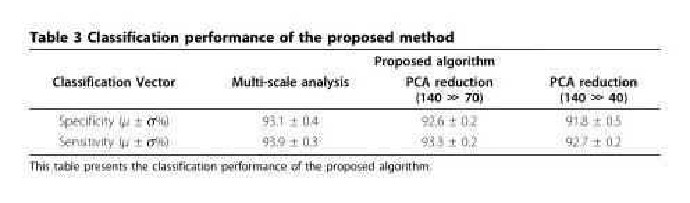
<table><thead><tr><td rowspan="2">Classification Vector</td><td colspan="3">Proposed algorithm</td></tr><tr><td>Multi-scale analysis</td><td>PCA reduction (140 ≫ 70)</td><td>PCA reduction (140 ≫ 40)</td></tr></thead><tbody><tr><td>Specificity (μ ± σ%)</td><td>93.1 ± 0.4</td><td>92.6 ± 0.2</td><td>91.8 ± 0.5</td></tr><tr><td>Sensitivity (μ ± σ%)</td><td>93.9 ± 0.3</td><td>93.3 ± 0.2</td><td>92.7 ± 0.2</td></tr></tbody></table>